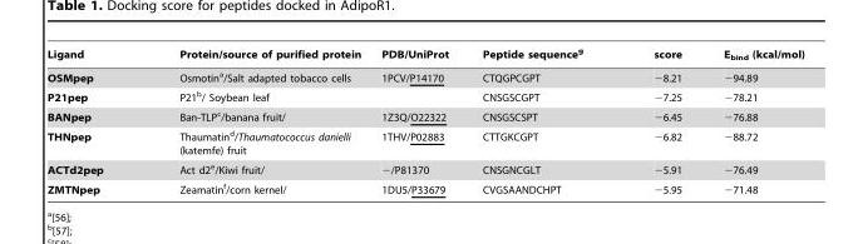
<table><thead><tr><td>Ligand</td><td>Protein/source of purified protein</td><td>PDB/UniProt</td><td>Peptide sequence<sup>g</sup></td><td>score</td><td>E<sub>bind</sub> (kcal/mol)</td></tr></thead><tbody><tr><td>OSMpep</td><td>Osmotin<sup>a</sup>/Salt adapted tobacco cells</td><td>1PCV/P14170</td><td>CTQGPCGPT</td><td>−8.21</td><td>−94.89</td></tr><tr><td>P21pep</td><td>P21<sup>b</sup>/ Soybean leaf</td><td></td><td>CNSGSCGPT</td><td>−7.25</td><td>−78.21</td></tr><tr><td>BANpep</td><td>Ban-TLP<sup>c</sup>/banana fruit/</td><td>1Z3Q/O22322</td><td>CNSGSCSPT</td><td>−6.45</td><td>−76.88</td></tr><tr><td>THNpep</td><td>Thaumatin<sup>d</sup>/Thaumatococcus danielli (katemfe) fruit</td><td>1THV/P02883</td><td>CTTGKCGPT</td><td>−6.82</td><td>−88.72</td></tr><tr><td>ACTd2pep</td><td>Act d2<sup>e</sup>/Kiwi fruit/</td><td>−/P81370</td><td>CNSGNCGLT</td><td>−5.91</td><td>−76.49</td></tr><tr><td>ZMTNpep</td><td>Zeamatin<sup>f</sup>/corn kernel/</td><td>1DU5/P33679</td><td>CVGSAANDCHPT</td><td>−5.95</td><td>−71.48</td></tr></tbody></table>